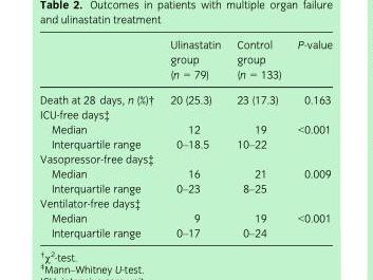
<table><thead><tr><td></td><td>Ulinastatin group (n = 79)</td><td>Control group (n = 133)</td><td>P-value</td></tr></thead><tbody><tr><td>Death at 28 days, n (%)†</td><td>20 (25.3)</td><td>23 (17.3)</td><td>0.163</td></tr><tr><td colspan="4">ICU-free days‡</td></tr><tr><td>Median</td><td>12</td><td>19</td><td rowspan="2">&lt;0.001</td></tr><tr><td>Interquartile range</td><td>0–18.5</td><td>10–22</td></tr><tr><td colspan="4">Vasopressor-free days‡</td></tr><tr><td>Median</td><td>16</td><td>21</td><td rowspan="2">0.009</td></tr><tr><td>Interquartile range</td><td>0–23</td><td>8–25</td></tr><tr><td colspan="4">Ventilator-free days‡</td></tr><tr><td>Median</td><td>9</td><td>19</td><td rowspan="2">&lt;0.001</td></tr><tr><td>Interquartile range</td><td>0–17</td><td>0–24</td></tr></tbody></table>